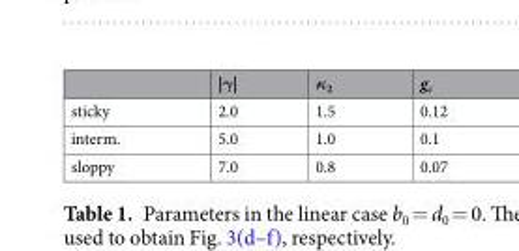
<table><thead><tr><td></td><td>|γ|</td><td>κ<sub>2</sub></td><td>g<sub>c</sub></td></tr></thead><tbody><tr><td>sticky</td><td>2.0</td><td>1.5</td><td>0.12</td></tr><tr><td>interm.</td><td>5.0</td><td>1.0</td><td>0.1</td></tr><tr><td>sloppy</td><td>7.0</td><td>0.8</td><td>0.07</td></tr></tbody></table>